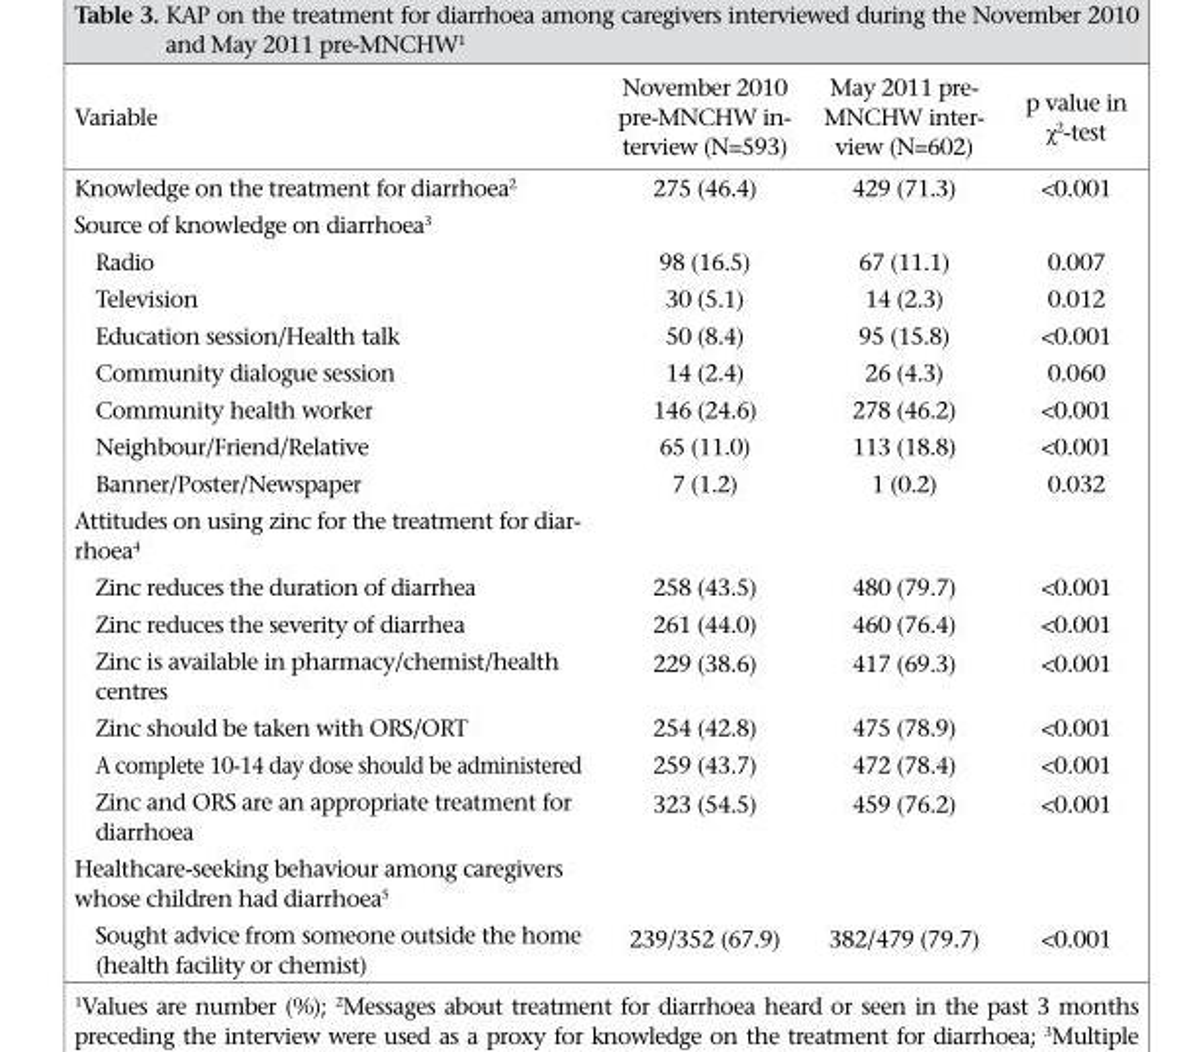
<table><thead><tr><td>Variable</td><td>November 2010 pre-MNCHW in- terview (N=593)</td><td>May 2011 pre- MNCHW inter- view (N=602)</td><td>p value in χ<sup>2</sup>-test</td></tr></thead><tbody><tr><td>Knowledge on the treatment for diarrhoea<sup>2</sup></td><td>275 (46.4)</td><td>429 (71.3)</td><td>&lt;0.001</td></tr><tr><td colspan="4">Source of knowledge on diarrhoea<sup>3</sup></td></tr><tr><td>Radio</td><td>98 (16.5)</td><td>67 (11.1)</td><td>0.007</td></tr><tr><td>Television</td><td>30 (5.1)</td><td>14 (2.3)</td><td>0.012</td></tr><tr><td>Education session/Health talk</td><td>50 (8.4)</td><td>95 (15.8)</td><td>&lt;0.001</td></tr><tr><td>Community dialogue session</td><td>14 (2.4)</td><td>26 (4.3)</td><td>0.060</td></tr><tr><td>Community health worker</td><td>146 (24.6)</td><td>278 (46.2)</td><td>&lt;0.001</td></tr><tr><td>Neighbour/Friend/Relative</td><td>65 (11.0)</td><td>113 (18.8)</td><td>&lt;0.001</td></tr><tr><td>Banner/Poster/Newspaper</td><td>7 (1.2)</td><td>1 (0.2)</td><td>0.032</td></tr><tr><td colspan="4">Attitudes on using zinc for the treatment for diar- rhoea4</td></tr><tr><td>Zinc reduces the duration of diarrhea</td><td>258 (43.5)</td><td>480 (79.7)</td><td>&lt;0.001</td></tr><tr><td>Zinc reduces the severity of diarrhea</td><td>261 (44.0)</td><td>460 (76.4)</td><td>&lt;0.001</td></tr><tr><td>Zinc is available in pharmacy/chemist/health centres</td><td>229 (38.6)</td><td>417 (69.3)</td><td>&lt;0.001</td></tr><tr><td>Zinc should be taken with ORS/ORT</td><td>254 (42.8)</td><td>475 (78.9)</td><td>&lt;0.001</td></tr><tr><td>A complete 10-14 day dose should be administered</td><td>259 (43.7)</td><td>472 (78.4)</td><td>&lt;0.001</td></tr><tr><td>Zinc and ORS are an appropriate treatment for diarrhoea</td><td>323 (54.5)</td><td>459 (76.2)</td><td>&lt;0.001</td></tr><tr><td colspan="4">Healthcare-seeking behaviour among caregivers whose children had diarrhoea<sup>5</sup></td></tr><tr><td>Sought advice from someone outside the home (health facility or chemist)</td><td>239/352 (67.9)</td><td>382/479 (79.7)</td><td>&lt;0.001</td></tr></tbody></table>